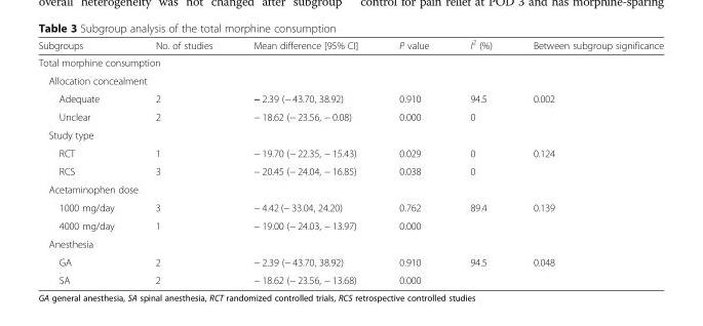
<table><thead><tr><td>Subgroups</td><td>No. of studies</td><td>Mean difference [95% CI]</td><td>P value</td><td>I<sup>2</sup> (%)</td><td>Between subgroup significance</td></tr></thead><tbody><tr><td colspan="6">Total morphine consumption</td></tr><tr><td colspan="6">Allocation concealment</td></tr><tr><td>Adequate</td><td>2</td><td>− 2.39 (− 43.70, 38.92)</td><td>0.910</td><td>94.5</td><td rowspan="2">0.002</td></tr><tr><td>Unclear</td><td>2</td><td>− 18.62 (− 23.56, − 0.08)</td><td>0.000</td><td>0</td></tr><tr><td colspan="6">Study type</td></tr><tr><td>RCT</td><td>1</td><td>− 19.70 (− 22.35, − 15.43)</td><td>0.029</td><td>0</td><td rowspan="2">0.124</td></tr><tr><td>RCS</td><td>3</td><td>− 20.45 (− 24.04, − 16.85)</td><td>0.038</td><td>0</td></tr><tr><td colspan="6">Acetaminophen dose</td></tr><tr><td>1000 mg/day</td><td>3</td><td>− 4.42 (− 33.04, 24.20)</td><td>0.762</td><td>89.4</td><td rowspan="2">0.139</td></tr><tr><td>4000 mg/day</td><td>1</td><td>− 19.00 (− 24.03, − 13.97)</td><td>0.000</td><td></td></tr><tr><td colspan="6">Anesthesia</td></tr><tr><td>GA</td><td>2</td><td>− 2.39 (− 43.70, 38.92)</td><td>0.910</td><td>94.5</td><td rowspan="2">0.048</td></tr><tr><td>SA</td><td>2</td><td>− 18.62 (− 23.56, − 13.68)</td><td>0.000</td><td></td></tr></tbody></table>